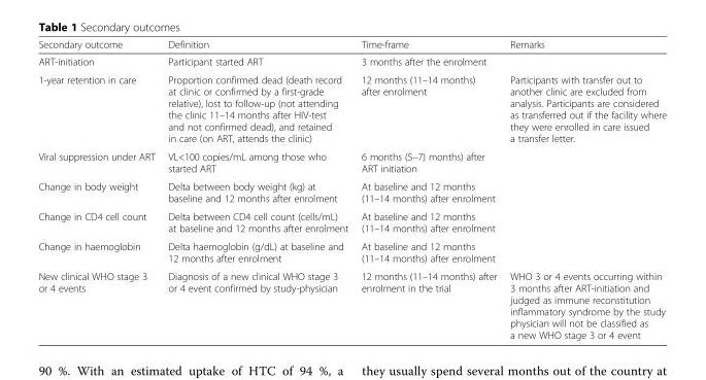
<table><thead><tr><td>Secondary outcome</td><td>Definition</td><td>Time-frame</td><td>Remarks</td></tr></thead><tbody><tr><td>ART-initiation</td><td>Participant started ART</td><td>3 months after the enrolment</td><td></td></tr><tr><td>1-year retention in care</td><td>Proportion confirmed dead (death record at clinic or confirmed by a first-grade relative), lost to follow-up (not attending the clinic 11–14 months after HIV-test and not confirmed dead), and retained in care (on ART, attends the clinic)</td><td>12 months (11–14 months) after enrolment</td><td>Participants with transfer out to another clinic are excluded from analysis. Participants are considered as transferred out if the facility where they were enrolled in care issued a transfer letter.</td></tr><tr><td>Viral suppression under ART</td><td>VL&lt;100 copies/mL among those who started ART</td><td>6 months (5–7) months) after ART initiation</td><td></td></tr><tr><td>Change in body weight</td><td>Delta between body weight (kg) at baseline and 12 months after enrolment</td><td>At baseline and 12 months (11–14 months) after enrolment</td><td></td></tr><tr><td>Change in CD4 cell count</td><td>Delta between CD4 cell count (cells/mL) at baseline and 12 months after enrolment</td><td>At baseline and 12 months (11–14 months) after enrolment</td><td></td></tr><tr><td>Change in haemoglobin</td><td>Delta haemoglobin (g/dL) at baseline and 12 months after enrolment</td><td>At baseline and 12 months (11–14 months) after enrolment</td><td></td></tr><tr><td>New clinical WHO stage 3 or 4 events</td><td>Diagnosis of a new clinical WHO stage 3 or 4 event confirmed by study-physician</td><td>12 months (11–14 months) after enrolment in the trial</td><td>WHO 3 or 4 events occurring within 3 months after ART-initiation and judged as immune reconstitution inflammatory syndrome by the study physician will not be classified as a new WHO stage 3 or 4 event</td></tr></tbody></table>